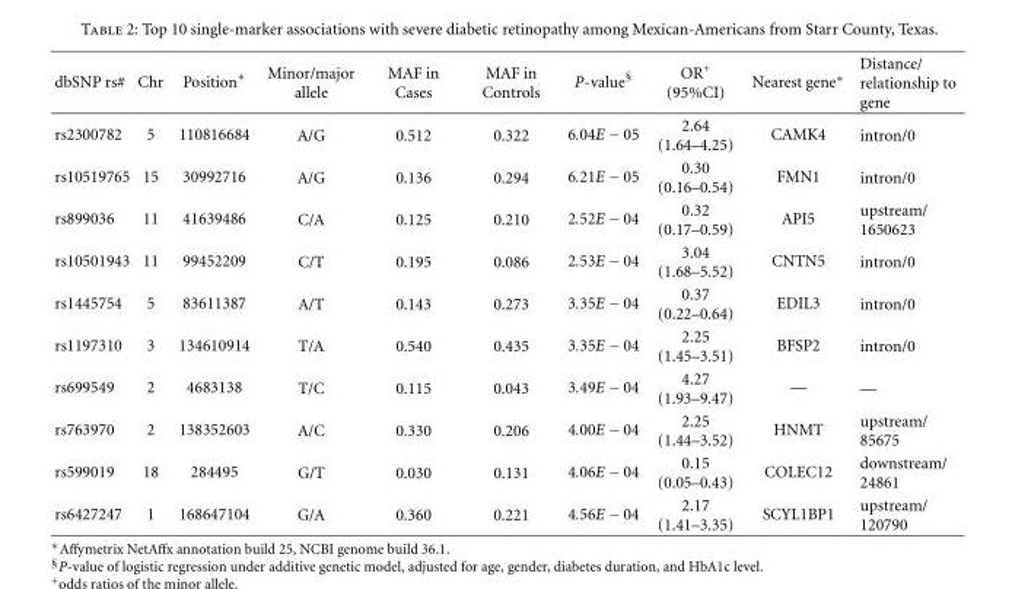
<table><thead><tr><td>dbSNP rs#</td><td>Chr</td><td>Position∗</td><td>Minor/major allele</td><td>MAF in Cases</td><td>MAF in Controls</td><td>P-value<sup>§</sup></td><td>OR<sup>+</sup> (95%CI)</td><td>Nearest gene∗</td><td>Distance/ relationship to gene</td></tr></thead><tbody><tr><td>rs2300782</td><td>5</td><td>110816684</td><td>A/G</td><td>0.512</td><td>0.322</td><td>6.04E − 05</td><td>2.64 (1.64–4.25)</td><td>CAMK4</td><td>intron/0</td></tr><tr><td>rs10519765</td><td>15</td><td>30992716</td><td>A/G</td><td>0.136</td><td>0.294</td><td>6.21E − 05</td><td>0.30 (0.16–0.54)</td><td>FMN1</td><td>intron/0</td></tr><tr><td>rs899036</td><td>11</td><td>41639486</td><td>C/A</td><td>0.125</td><td>0.210</td><td>2.52E − 04</td><td>0.32 (0.17–0.59)</td><td>API5</td><td>upstream/ 1650623</td></tr><tr><td>rs10501943</td><td>11</td><td>99452209</td><td>C/T</td><td>0.195</td><td>0.086</td><td>2.53E − 04</td><td>3.04 (1.68–5.52)</td><td>CNTN5</td><td>intron/0</td></tr><tr><td>rs1445754</td><td>5</td><td>83611387</td><td>A/T</td><td>0.143</td><td>0.273</td><td>3.35E − 04</td><td>0.37 (0.22–0.64)</td><td>EDIL3</td><td>intron/0</td></tr><tr><td>rs1197310</td><td>3</td><td>134610914</td><td>T/A</td><td>0.540</td><td>0.435</td><td>3.35E − 04</td><td>2.25 (1.45–3.51)</td><td>BFSP2</td><td>intron/0</td></tr><tr><td>rs699549</td><td>2</td><td>4683138</td><td>T/C</td><td>0.115</td><td>0.043</td><td>3.49E − 04</td><td>4.27 (1.93–9.47)</td><td>—</td><td>—</td></tr><tr><td>rs763970</td><td>2</td><td>138352603</td><td>A/C</td><td>0.330</td><td>0.206</td><td>4.00E − 04</td><td>2.25 (1.44–3.52)</td><td>HNMT</td><td>upstream/ 85675</td></tr><tr><td>rs599019</td><td>18</td><td>284495</td><td>G/T</td><td>0.030</td><td>0.131</td><td>4.06E − 04</td><td>0.15 (0.05–0.43)</td><td>COLEC12</td><td>downstream/ 24861</td></tr><tr><td>rs6427247</td><td>1</td><td>168647104</td><td>G/A</td><td>0.360</td><td>0.221</td><td>4.56E − 04</td><td>2.17 (1.41–3.35)</td><td>SCYL1BP1</td><td>upstream/ 120790</td></tr></tbody></table>